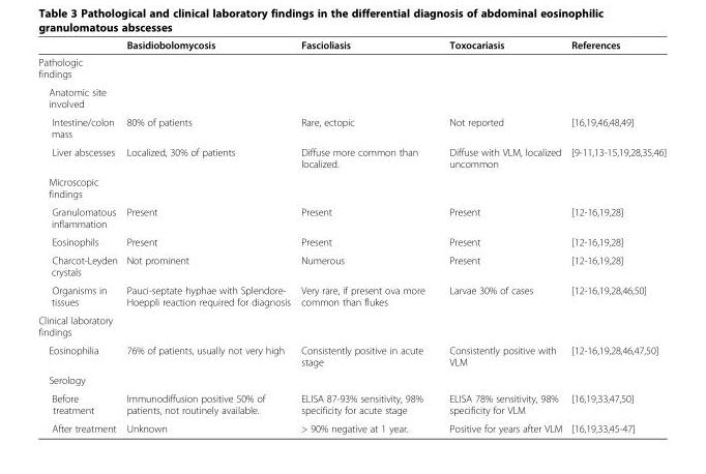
<table><thead><tr><td></td><td>Basidiobolomycosis</td><td>Fascioliasis</td><td>Toxocariasis</td><td>References</td></tr></thead><tbody><tr><td colspan="5">Pathologic findings</td></tr><tr><td colspan="5">Anatomic site involved</td></tr><tr><td>Intestine/colon mass</td><td>80% of patients</td><td>Rare, ectopic</td><td>Not reported</td><td>[16,19,46,48,49]</td></tr><tr><td>Liver abscesses</td><td>Localized, 30% of patients</td><td>Diffuse more common than localized.</td><td>Diffuse with VLM, localized uncommon</td><td>[9-11,13-15,19,28,35,46]</td></tr><tr><td colspan="5">Microscopic findings</td></tr><tr><td>Granulomatous inflammation</td><td>Present</td><td>Present</td><td>Present</td><td>[12-16,19,28]</td></tr><tr><td>Eosinophils</td><td>Present</td><td>Present</td><td>Present</td><td>[12-16,19,28]</td></tr><tr><td>Charcot-Leyden crystals</td><td>Not prominent</td><td>Numerous</td><td>Present</td><td>[12-16,19,28]</td></tr><tr><td>Organisms in tissues</td><td>Pauci-septate hyphae with Splendore- Hoeppli reaction required for diagnosis</td><td>Very rare, if present ova more common than flukes</td><td>Larvae 30% of cases</td><td>[12-16,19,28,46,50]</td></tr><tr><td colspan="5">Clinical laboratory findings</td></tr><tr><td>Eosinophilia</td><td>76% of patients, usually not very high</td><td>Consistently positive in acute stage</td><td>Consistently positive with VLM</td><td>[12-16,19,28,46,47,50]</td></tr><tr><td colspan="5">Serology</td></tr><tr><td>Before treatment</td><td>Immunodiffusion positive 50% of patients, not routinely available.</td><td>ELISA 87-93% sensitivity, 98% specificity for acute stage</td><td>ELISA 78% sensitivity, 98% specificity for VLM</td><td>[16,19,33,47,50]</td></tr><tr><td>After treatment</td><td>Unknown</td><td>&gt; 90% negative at 1 year.</td><td>Positive for years after VLM</td><td>[16,19,33,45-47]</td></tr></tbody></table>